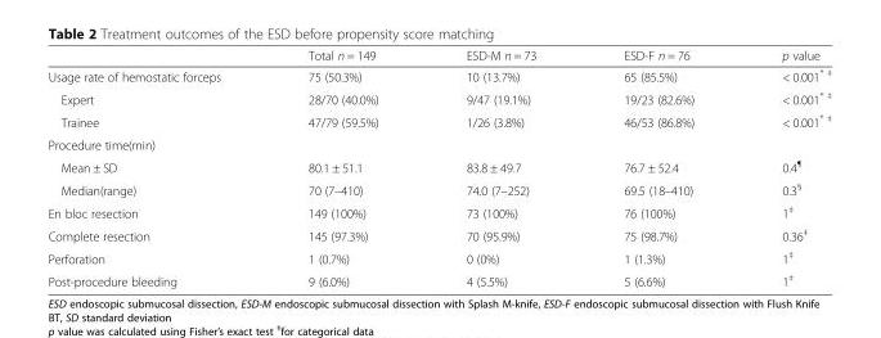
<table><thead><tr><td></td><td>Total n = 149</td><td>ESD-M n = 73</td><td>ESD-F n = 76</td><td>p value</td></tr></thead><tbody><tr><td>Usage rate of hemostatic forceps</td><td>75 (50.3%)</td><td>10 (13.7%)</td><td>65 (85.5%)</td><td>&lt; 0.001<sup>* ‡</sup></td></tr><tr><td>Expert</td><td>28/70 (40.0%)</td><td>9/47 (19.1%)</td><td>19/23 (82.6%)</td><td>&lt; 0.001<sup>* ‡</sup></td></tr><tr><td>Trainee</td><td>47/79 (59.5%)</td><td>1/26 (3.8%)</td><td>46/53 (86.8%)</td><td>&lt; 0.001<sup>* ‡</sup></td></tr><tr><td colspan="5">Procedure time(min)</td></tr><tr><td>Mean ± SD</td><td>80.1 ± 51.1</td><td>83.8 ± 49.7</td><td>76.7 ± 52.4</td><td>0.4<sup>¶</sup></td></tr><tr><td>Median(range)</td><td>70 (7–410)</td><td>74.0 (7–252)</td><td>69.5 (18–410)</td><td>0.3<sup>§</sup></td></tr><tr><td>En bloc resection</td><td>149 (100%)</td><td>73 (100%)</td><td>76 (100%)</td><td>1<sup>‡</sup></td></tr><tr><td>Complete resection</td><td>145 (97.3%)</td><td>70 (95.9%)</td><td>75 (98.7%)</td><td>0.36<sup>‡</sup></td></tr><tr><td>Perforation</td><td>1 (0.7%)</td><td>0 (0%)</td><td>1 (1.3%)</td><td>1<sup>‡</sup></td></tr><tr><td>Post-procedure bleeding</td><td>9 (6.0%)</td><td>4 (5.5%)</td><td>5 (6.6%)</td><td>1<sup>‡</sup></td></tr></tbody></table>